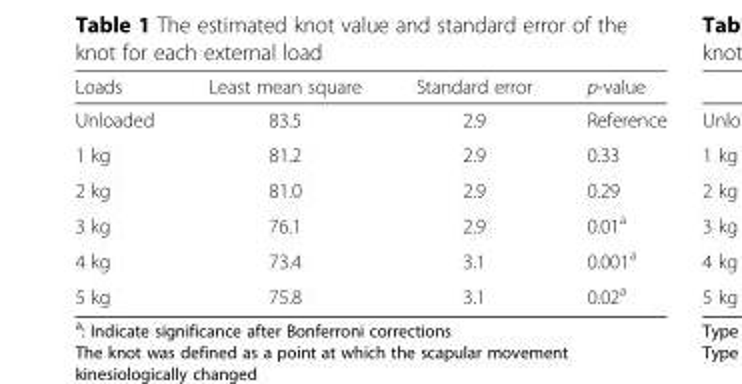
<table><thead><tr><td>Loads</td><td>Least mean square</td><td>Standard error</td><td>p-value</td></tr></thead><tbody><tr><td>Unloaded</td><td>83.5</td><td>2.9</td><td>Reference</td></tr><tr><td>1 kg</td><td>81.2</td><td>2.9</td><td>0.33</td></tr><tr><td>2 kg</td><td>81.0</td><td>2.9</td><td>0.29</td></tr><tr><td>3 kg</td><td>76.1</td><td>2.9</td><td>0.01<sup>a</sup></td></tr><tr><td>4 kg</td><td>73.4</td><td>3.1</td><td>0.001<sup>a</sup></td></tr><tr><td>5 kg</td><td>75.8</td><td>3.1</td><td>0.02<sup>a</sup></td></tr></tbody></table>